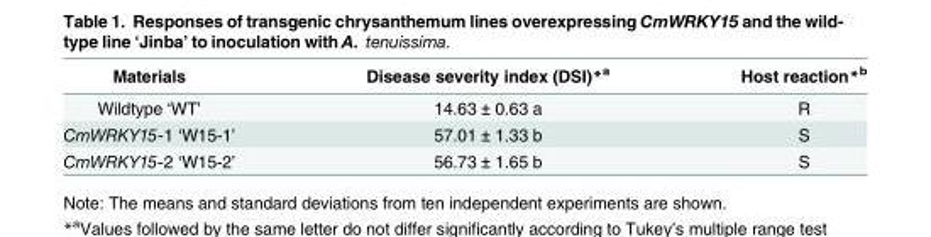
<table><thead><tr><td>Materials</td><td>Disease severity index (DSI)*<sup>a</sup></td><td>Host reaction*<sup>b</sup></td></tr></thead><tbody><tr><td>Wildtype ‘WT’</td><td>14.63 ± 0.63 a</td><td>R</td></tr><tr><td>CmWRKY15-1 ‘W15-1’</td><td>57.01 ± 1.33 b</td><td>S</td></tr><tr><td>CmWRKY15-2 ‘W15-2’</td><td>56.73 ± 1.65 b</td><td>S</td></tr></tbody></table>